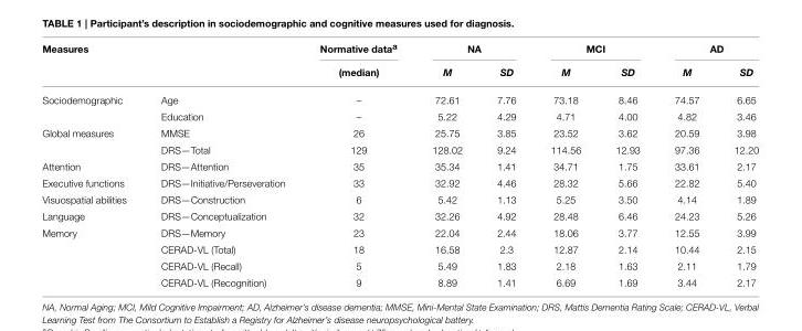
<table><thead><tr><td colspan="2">Measures</td><td rowspan="2">Normative data<sup>a</sup> (median)</td><td colspan="2">NA</td><td colspan="2">MCI</td><td colspan="2">AD</td></tr><tr><td></td><td></td><td>M</td><td>SD</td><td>M</td><td>SD</td><td>M</td><td>SD</td></tr></thead><tbody><tr><td rowspan="2">Sociodemographic</td><td>Age</td><td>–</td><td>72.61</td><td>7.76</td><td>73.18</td><td>8.46</td><td>74.57</td><td>6.65</td></tr><tr><td>Education</td><td>–</td><td>5.22</td><td>4.29</td><td>4.71</td><td>4.00</td><td>4.82</td><td>3.46</td></tr><tr><td rowspan="2">Global measures</td><td>MMSE</td><td>26</td><td>25.75</td><td>3.85</td><td>23.52</td><td>3.62</td><td>20.59</td><td>3.98</td></tr><tr><td>DRS—Total</td><td>129</td><td>128.02</td><td>9.24</td><td>114.56</td><td>12.93</td><td>97.36</td><td>12.20</td></tr><tr><td>Attention</td><td>DRS—Attention</td><td>35</td><td>35.34</td><td>1.41</td><td>34.71</td><td>1.75</td><td>33.61</td><td>2.17</td></tr><tr><td>Executive functions</td><td>DRS—Initiative/Perseveration</td><td>33</td><td>32.92</td><td>4.46</td><td>28.32</td><td>5.66</td><td>22.82</td><td>5.40</td></tr><tr><td>Visuospatial abilities</td><td>DRS—Construction</td><td>6</td><td>5.42</td><td>1.13</td><td>5.25</td><td>3.50</td><td>4.14</td><td>1.89</td></tr><tr><td>Language</td><td>DRS—Conceptualization</td><td>32</td><td>32.26</td><td>4.92</td><td>28.48</td><td>6.46</td><td>24.23</td><td>5.26</td></tr><tr><td rowspan="4">Memory</td><td>DRS—Memory</td><td>23</td><td>22.04</td><td>2.44</td><td>18.06</td><td>3.77</td><td>12.55</td><td>3.99</td></tr><tr><td>CERAD-VL (Total)</td><td>18</td><td>16.58</td><td>2.3</td><td>12.87</td><td>2.14</td><td>10.44</td><td>2.15</td></tr><tr><td>CERAD-VL (Recall)</td><td>5</td><td>5.49</td><td>1.83</td><td>2.18</td><td>1.63</td><td>2.11</td><td>1.79</td></tr><tr><td>CERAD-VL (Recognition)</td><td>9</td><td>8.89</td><td>1.41</td><td>6.69</td><td>1.69</td><td>3.44</td><td>2.17</td></tr></tbody></table>